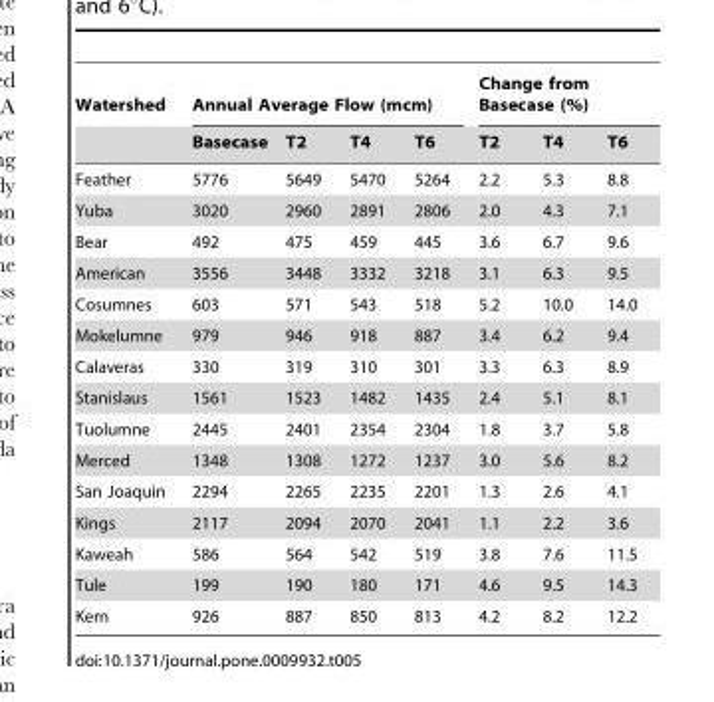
<table><thead><tr><td rowspan="2">Watershed</td><td colspan="4">Annual Average Flow (mcm)</td><td colspan="3">Change from Basecase (%)</td></tr><tr><td>Basecase</td><td>T2</td><td>T4</td><td>T6</td><td>T2</td><td>T4</td><td>T6</td></tr></thead><tbody><tr><td>Feather</td><td>5776</td><td>5649</td><td>5470</td><td>5264</td><td>2.2</td><td>5.3</td><td>8.8</td></tr><tr><td>Yuba</td><td>3020</td><td>2960</td><td>2891</td><td>2806</td><td>2.0</td><td>4.3</td><td>7.1</td></tr><tr><td>Bear</td><td>492</td><td>475</td><td>459</td><td>445</td><td>3.6</td><td>6.7</td><td>9.6</td></tr><tr><td>American</td><td>3556</td><td>3448</td><td>3332</td><td>3218</td><td>3.1</td><td>6.3</td><td>9.5</td></tr><tr><td>Cosumnes</td><td>603</td><td>571</td><td>543</td><td>518</td><td>5.2</td><td>10.0</td><td>14.0</td></tr><tr><td>Mokelumne</td><td>979</td><td>946</td><td>918</td><td>887</td><td>3.4</td><td>6.2</td><td>9.4</td></tr><tr><td>Calaveras</td><td>330</td><td>319</td><td>310</td><td>301</td><td>3.3</td><td>6.3</td><td>8.9</td></tr><tr><td>Stanislaus</td><td>1561</td><td>1523</td><td>1482</td><td>1435</td><td>2.4</td><td>5.1</td><td>8.1</td></tr><tr><td>Tuolumne</td><td>2445</td><td>2401</td><td>2354</td><td>2304</td><td>1.8</td><td>3.7</td><td>5.8</td></tr><tr><td>Merced</td><td>1348</td><td>1308</td><td>1272</td><td>1237</td><td>3.0</td><td>5.6</td><td>8.2</td></tr><tr><td>San Joaquin</td><td>2294</td><td>2265</td><td>2235</td><td>2201</td><td>1.3</td><td>2.6</td><td>4.1</td></tr><tr><td>Kings</td><td>2117</td><td>2094</td><td>2070</td><td>2041</td><td>1.1</td><td>2.2</td><td>3.6</td></tr><tr><td>Kaweah</td><td>586</td><td>564</td><td>542</td><td>519</td><td>3.8</td><td>7.6</td><td>11.5</td></tr><tr><td>Tule</td><td>199</td><td>190</td><td>180</td><td>171</td><td>4.6</td><td>9.5</td><td>14.3</td></tr><tr><td>Kern</td><td>926</td><td>887</td><td>850</td><td>813</td><td>4.2</td><td>8.2</td><td>12.2</td></tr></tbody></table>